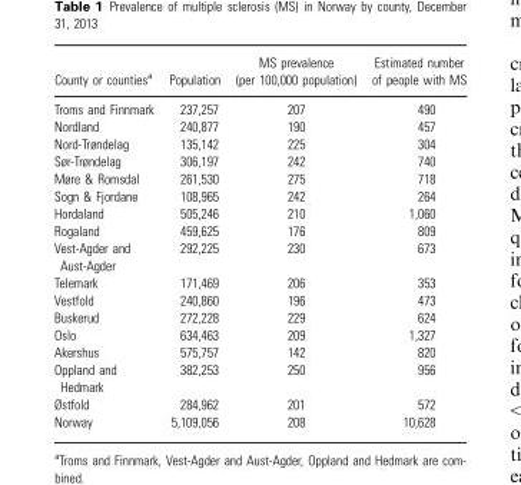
<table><thead><tr><td>County or counties<sup>a</sup></td><td>Population</td><td>MS prevalence (per 100,000 population)</td><td>Estimated number of people with MS</td></tr></thead><tbody><tr><td>Troms and Finnmark</td><td>237,257</td><td>207</td><td>490</td></tr><tr><td>Nordland</td><td>240,877</td><td>190</td><td>457</td></tr><tr><td>Nord-Trøndelag</td><td>135,142</td><td>225</td><td>304</td></tr><tr><td>Sør-Trøndelag</td><td>306,197</td><td>242</td><td>740</td></tr><tr><td>Møre &amp; Romsdal</td><td>261,530</td><td>275</td><td>718</td></tr><tr><td>Sogn &amp; Fjordane</td><td>108,965</td><td>242</td><td>264</td></tr><tr><td>Hordaland</td><td>505,246</td><td>210</td><td>1,060</td></tr><tr><td>Rogaland</td><td>459,625</td><td>176</td><td>809</td></tr><tr><td>Vest-Agder and Aust-Agder</td><td>292,225</td><td>230</td><td>673</td></tr><tr><td>Telemark</td><td>171,469</td><td>206</td><td>353</td></tr><tr><td>Vestfold</td><td>240,860</td><td>196</td><td>473</td></tr><tr><td>Buskerud</td><td>272,228</td><td>229</td><td>624</td></tr><tr><td>Oslo</td><td>634,463</td><td>209</td><td>1,327</td></tr><tr><td>Akershus</td><td>575,757</td><td>142</td><td>820</td></tr><tr><td>Oppland and Hedmark</td><td>382,253</td><td>250</td><td>956</td></tr><tr><td>Østfold</td><td>284,962</td><td>201</td><td>572</td></tr><tr><td>Norway</td><td>5,109,056</td><td>208</td><td>10,628</td></tr></tbody></table>